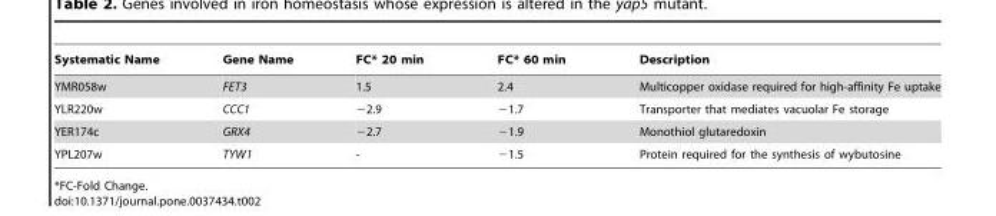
<table><thead><tr><td>Systematic Name</td><td>Gene Name</td><td>FC* 20 min</td><td>FC* 60 min</td><td>Description</td></tr></thead><tbody><tr><td>YMR058w</td><td>FET3</td><td>1.5</td><td>2.4</td><td>Multicopper oxidase required for high-affinity Fe uptake</td></tr><tr><td>YLR220w</td><td>CCC1</td><td>−2.9</td><td>−1.7</td><td>Transporter that mediates vacuolar Fe storage</td></tr><tr><td>YER174c</td><td>GRX4</td><td>−2.7</td><td>−1.9</td><td>Monothiol glutaredoxin</td></tr><tr><td>YPL207w</td><td>TYW1</td><td>-</td><td>−1.5</td><td>Protein required for the synthesis of wybutosine</td></tr></tbody></table>